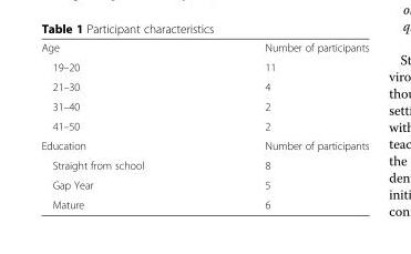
<table><tbody><tr><td>Age</td><td>Number of participants</td></tr><tr><td>19–20</td><td>11</td></tr><tr><td>21–30</td><td>4</td></tr><tr><td>31–40</td><td>2</td></tr><tr><td>41–50</td><td>2</td></tr><tr><td>Education</td><td>Number of participants</td></tr><tr><td>Straight from school</td><td>8</td></tr><tr><td>Gap Year</td><td>5</td></tr><tr><td>Mature</td><td>6</td></tr></tbody></table>